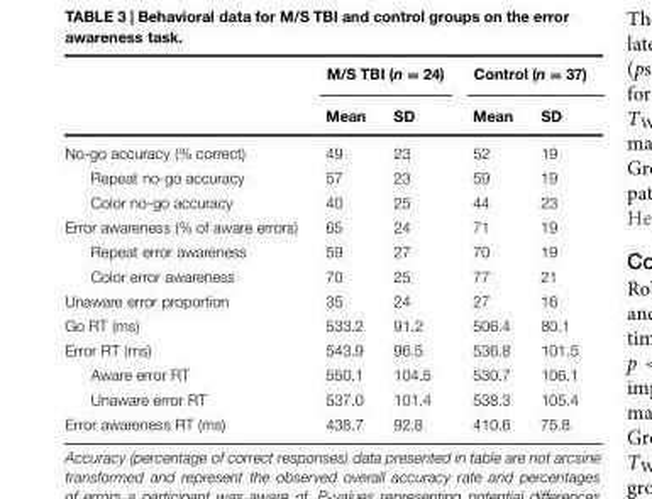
<table><thead><tr><td rowspan="2"></td><td colspan="2">M/S TBI (n = 24)</td><td colspan="2">Control (n = 37)</td></tr><tr><td>Mean</td><td>SD</td><td>Mean</td><td>SD</td></tr></thead><tbody><tr><td>No-go accuracy (% correct)</td><td>49</td><td>23</td><td>52</td><td>19</td></tr><tr><td>Repeat no-go accuracy</td><td>57</td><td>23</td><td>59</td><td>19</td></tr><tr><td>Color no-go accuracy</td><td>40</td><td>25</td><td>44</td><td>23</td></tr><tr><td>Error awareness (% of aware errors)</td><td>65</td><td>24</td><td>71</td><td>19</td></tr><tr><td>Repeat error awareness</td><td>59</td><td>27</td><td>70</td><td>19</td></tr><tr><td>Color error awareness</td><td>70</td><td>25</td><td>77</td><td>21</td></tr><tr><td>Unaware error proportion</td><td>35</td><td>24</td><td>27</td><td>16</td></tr><tr><td>Go RT (ms)</td><td>533.2</td><td>91.2</td><td>506.4</td><td>80.1</td></tr><tr><td>Error RT (ms)</td><td>543.9</td><td>96.5</td><td>536.8</td><td>101.5</td></tr><tr><td>Aware error RT</td><td>550.1</td><td>104.5</td><td>530.7</td><td>106.1</td></tr><tr><td>Unaware error RT</td><td>537.0</td><td>101.4</td><td>538.3</td><td>105.4</td></tr><tr><td>Error awareness RT (ms)</td><td>438.7</td><td>92.8</td><td>410.6</td><td>75.8</td></tr></tbody></table>